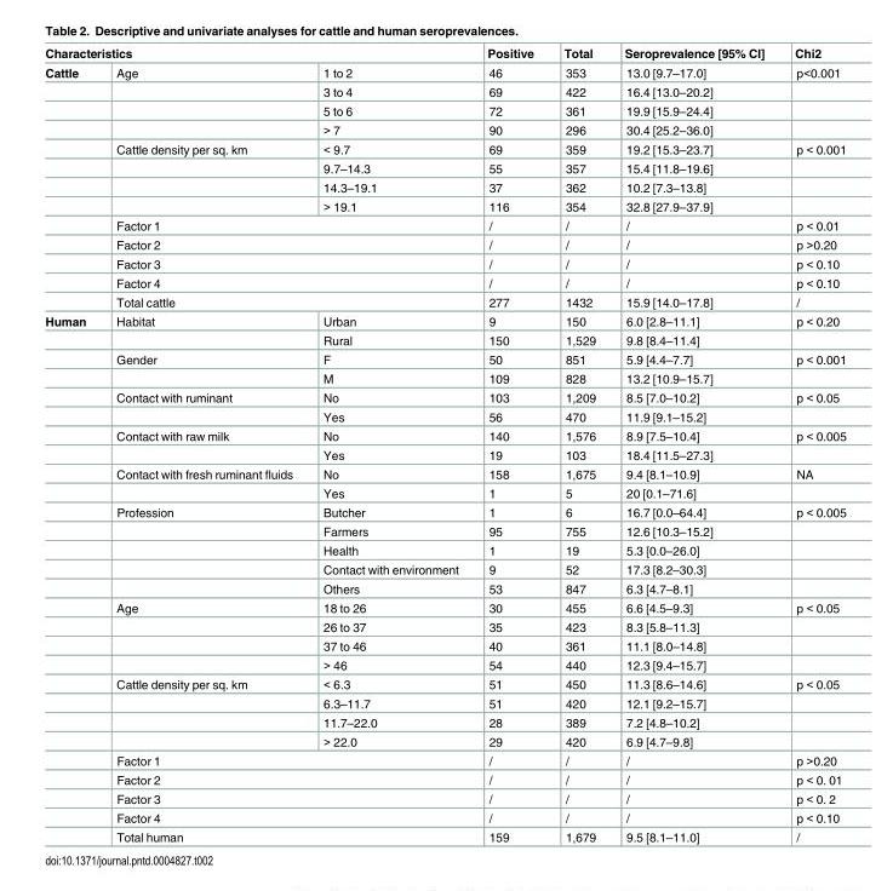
<table><thead><tr><td colspan="3">Characteristics</td><td rowspan="2">Positive 46</td><td rowspan="2">Total 353</td><td rowspan="2">Seroprevalence [95% CI] 13.0 [9.7–17.0]</td><td rowspan="2">Chi2 p&lt;0.001</td></tr><tr><td>Cattle</td><td>Age</td><td>1 to 2</td></tr></thead><tbody><tr><td></td><td></td><td>3 to 4</td><td>69</td><td>422</td><td>16.4 [13.0–20.2]</td><td></td></tr><tr><td></td><td></td><td>5 to 6</td><td>72</td><td>361</td><td>19.9 [15.9–24.4]</td><td></td></tr><tr><td></td><td></td><td>&gt; 7</td><td>90</td><td>296</td><td>30.4 [25.2–36.0]</td><td></td></tr><tr><td></td><td>Cattle density per sq. km</td><td>&lt; 9.7</td><td>69</td><td>359</td><td>19.2 [15.3–23.7]</td><td>p &lt; 0.001</td></tr><tr><td></td><td></td><td>9.7–14.3</td><td>55</td><td>357</td><td>15.4 [11.8–19.6]</td><td></td></tr><tr><td></td><td></td><td>14.3–19.1</td><td>37</td><td>362</td><td>10.2 [7.3–13.8]</td><td></td></tr><tr><td></td><td></td><td>&gt; 19.1</td><td>116</td><td>354</td><td>32.8 [27.9–37.9]</td><td></td></tr><tr><td></td><td colspan="2">Factor 1</td><td>/</td><td>/</td><td>/</td><td>p &lt; 0.01</td></tr><tr><td></td><td colspan="2">Factor 2</td><td>/</td><td>/</td><td>/</td><td>p &gt;0.20</td></tr><tr><td></td><td colspan="2">Factor 3</td><td>/</td><td>/</td><td>/</td><td>p &lt; 0.10</td></tr><tr><td></td><td colspan="2">Factor 4</td><td>/</td><td>/</td><td>/</td><td>p &lt; 0.10</td></tr><tr><td></td><td colspan="2">Total cattle</td><td>277</td><td>1432</td><td>15.9 [14.0–17.8]</td><td>/</td></tr><tr><td rowspan="28">Human</td><td>Habitat</td><td>Urban</td><td>9</td><td>150</td><td>6.0 [2.8–11.1]</td><td>p &lt; 0.20</td></tr><tr><td></td><td>Rural</td><td>150</td><td>1,529</td><td>9.8 [8.4–11.4]</td><td></td></tr><tr><td>Gender</td><td>F</td><td>50</td><td>851</td><td>5.9 [4.4–7.7]</td><td>p &lt; 0.001</td></tr><tr><td></td><td>M</td><td>109</td><td>828</td><td>13.2 [10.9–15.7]</td><td></td></tr><tr><td>Contact with ruminant</td><td>No</td><td>103</td><td>1,209</td><td>8.5 [7.0–10.2]</td><td>p &lt; 0.05</td></tr><tr><td></td><td>Yes</td><td>56</td><td>470</td><td>11.9 [9.1–15.2]</td><td></td></tr><tr><td>Contact with raw milk</td><td>No</td><td>140</td><td>1,576</td><td>8.9 [7.5–10.4]</td><td>p &lt; 0.005</td></tr><tr><td></td><td>Yes</td><td>19</td><td>103</td><td>18.4 [11.5–27.3]</td><td></td></tr><tr><td>Contact with fresh ruminant fluids</td><td>No</td><td>158</td><td>1,675</td><td>9.4 [8.1–10.9]</td><td>NA</td></tr><tr><td></td><td>Yes</td><td>1</td><td>5</td><td>20 [0.1–71.6]</td><td></td></tr><tr><td>Profession</td><td>Butcher</td><td>1</td><td>6</td><td>16.7 [0.0–64.4]</td><td>p &lt; 0.005</td></tr><tr><td></td><td>Farmers</td><td>95</td><td>755</td><td>12.6 [10.3–15.2]</td><td></td></tr><tr><td></td><td>Health</td><td>1</td><td>19</td><td>5.3 [0.0–26.0]</td><td></td></tr><tr><td></td><td>Contact with environment</td><td>9</td><td>52</td><td>17.3 [8.2–30.3]</td><td></td></tr><tr><td></td><td>Others</td><td>53</td><td>847</td><td>6.3 [4.7–8.1]</td><td></td></tr><tr><td>Age</td><td>18 to 26</td><td>30</td><td>455</td><td>6.6 [4.5–9.3]</td><td>p &lt; 0.05</td></tr><tr><td></td><td>26 to 37</td><td>35</td><td>423</td><td>8.3 [5.8–11.3]</td><td></td></tr><tr><td></td><td>37 to 46</td><td>40</td><td>361</td><td>11.1 [8.0–14.8]</td><td></td></tr><tr><td></td><td>&gt; 46</td><td>54</td><td>440</td><td>12.3 [9.4–15.7]</td><td></td></tr><tr><td>Cattle density per sq. km</td><td>&lt; 6.3</td><td>51</td><td>450</td><td>11.3 [8.6–14.6]</td><td>p &lt; 0.05</td></tr><tr><td></td><td>6.3–11.7</td><td>51</td><td>420</td><td>12.1 [9.2–15.7]</td><td></td></tr><tr><td></td><td>11.7–22.0</td><td>28</td><td>389</td><td>7.2 [4.8–10.2]</td><td></td></tr><tr><td></td><td>&gt; 22.0</td><td>29</td><td>420</td><td>6.9 [4.7–9.8]</td><td></td></tr><tr><td colspan="2">Factor 1</td><td>/</td><td>/</td><td>/</td><td>p &gt;0.20</td></tr><tr><td colspan="2">Factor 2</td><td>/</td><td>/</td><td>/</td><td>p &lt; 0. 01</td></tr><tr><td colspan="2">Factor 3</td><td>/</td><td>/</td><td>/</td><td>p &lt; 0. 2</td></tr><tr><td colspan="2">Factor 4</td><td>/</td><td>/</td><td>/</td><td>p &lt; 0.10</td></tr><tr><td colspan="2">Total human</td><td>159</td><td>1,679</td><td>9.5 [8.1–11.0]</td><td>/</td></tr></tbody></table>